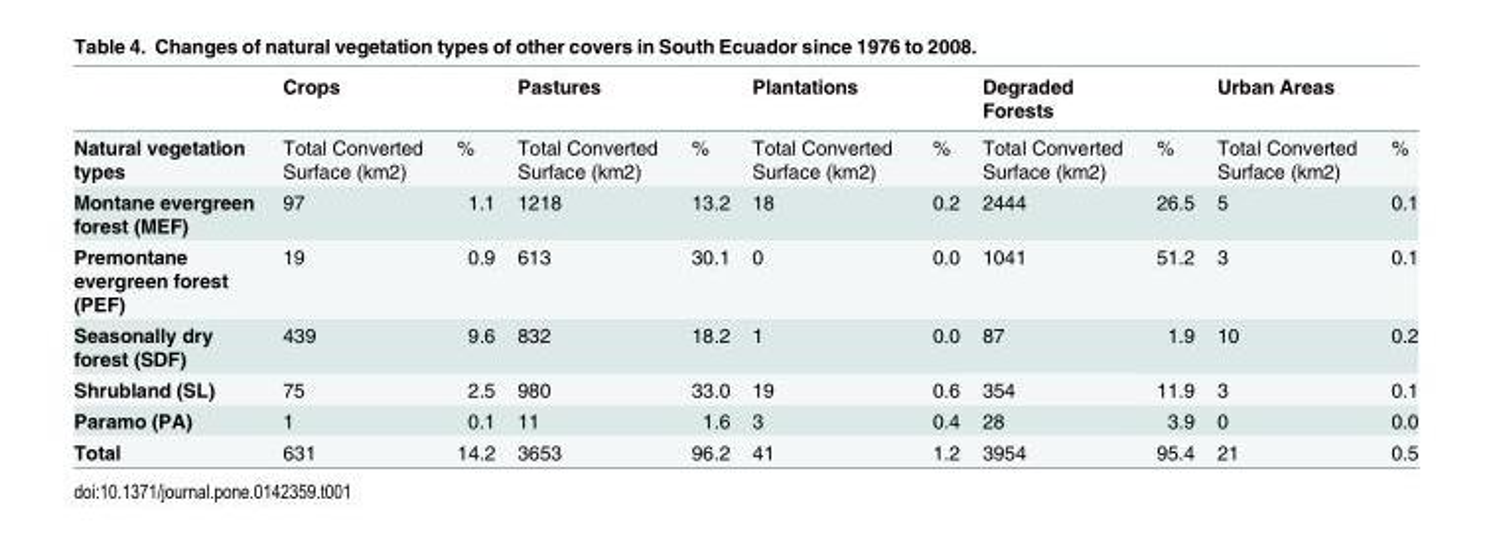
<table><thead><tr><td></td><td>Crops</td><td></td><td>Pastures</td><td></td><td>Plantations</td><td></td><td>Degraded Forests</td><td></td><td>Urban Areas</td><td></td></tr></thead><tbody><tr><td>Natural vegetation types</td><td>Total Converted Surface (km2)</td><td>%</td><td>Total Converted Surface (km2)</td><td>%</td><td>Total Converted Surface (km2)</td><td>%</td><td>Total Converted Surface (km2)</td><td>%</td><td>Total Converted Surface (km2)</td><td>%</td></tr><tr><td>Montane evergreen forest (MEF)</td><td>97</td><td>1.1</td><td>1218</td><td>13.2</td><td>18</td><td>0.2</td><td>2444</td><td>26.5</td><td>5</td><td>0.1</td></tr><tr><td>Premontane evergreen forest (PEF)</td><td>19</td><td>0.9</td><td>613</td><td>30.1</td><td>0</td><td>0.0</td><td>1041</td><td>51.2</td><td>3</td><td>0.1</td></tr><tr><td>Seasonally dry forest (SDF)</td><td>439</td><td>9.6</td><td>832</td><td>18.2</td><td>1</td><td>0.0</td><td>87</td><td>1.9</td><td>10</td><td>0.2</td></tr><tr><td>Shrubland (SL)</td><td>75</td><td>2.5</td><td>980</td><td>33.0</td><td>19</td><td>0.6</td><td>354</td><td>11.9</td><td>3</td><td>0.1</td></tr><tr><td>Paramo (PA)</td><td>1</td><td>0.1</td><td>11</td><td>1.6</td><td>3</td><td>0.4</td><td>28</td><td>3.9</td><td>0</td><td>0.0</td></tr><tr><td>Total</td><td>631</td><td>14.2</td><td>3653</td><td>96.2</td><td>41</td><td>1.2</td><td>3954</td><td>95.4</td><td>21</td><td>0.5</td></tr></tbody></table>